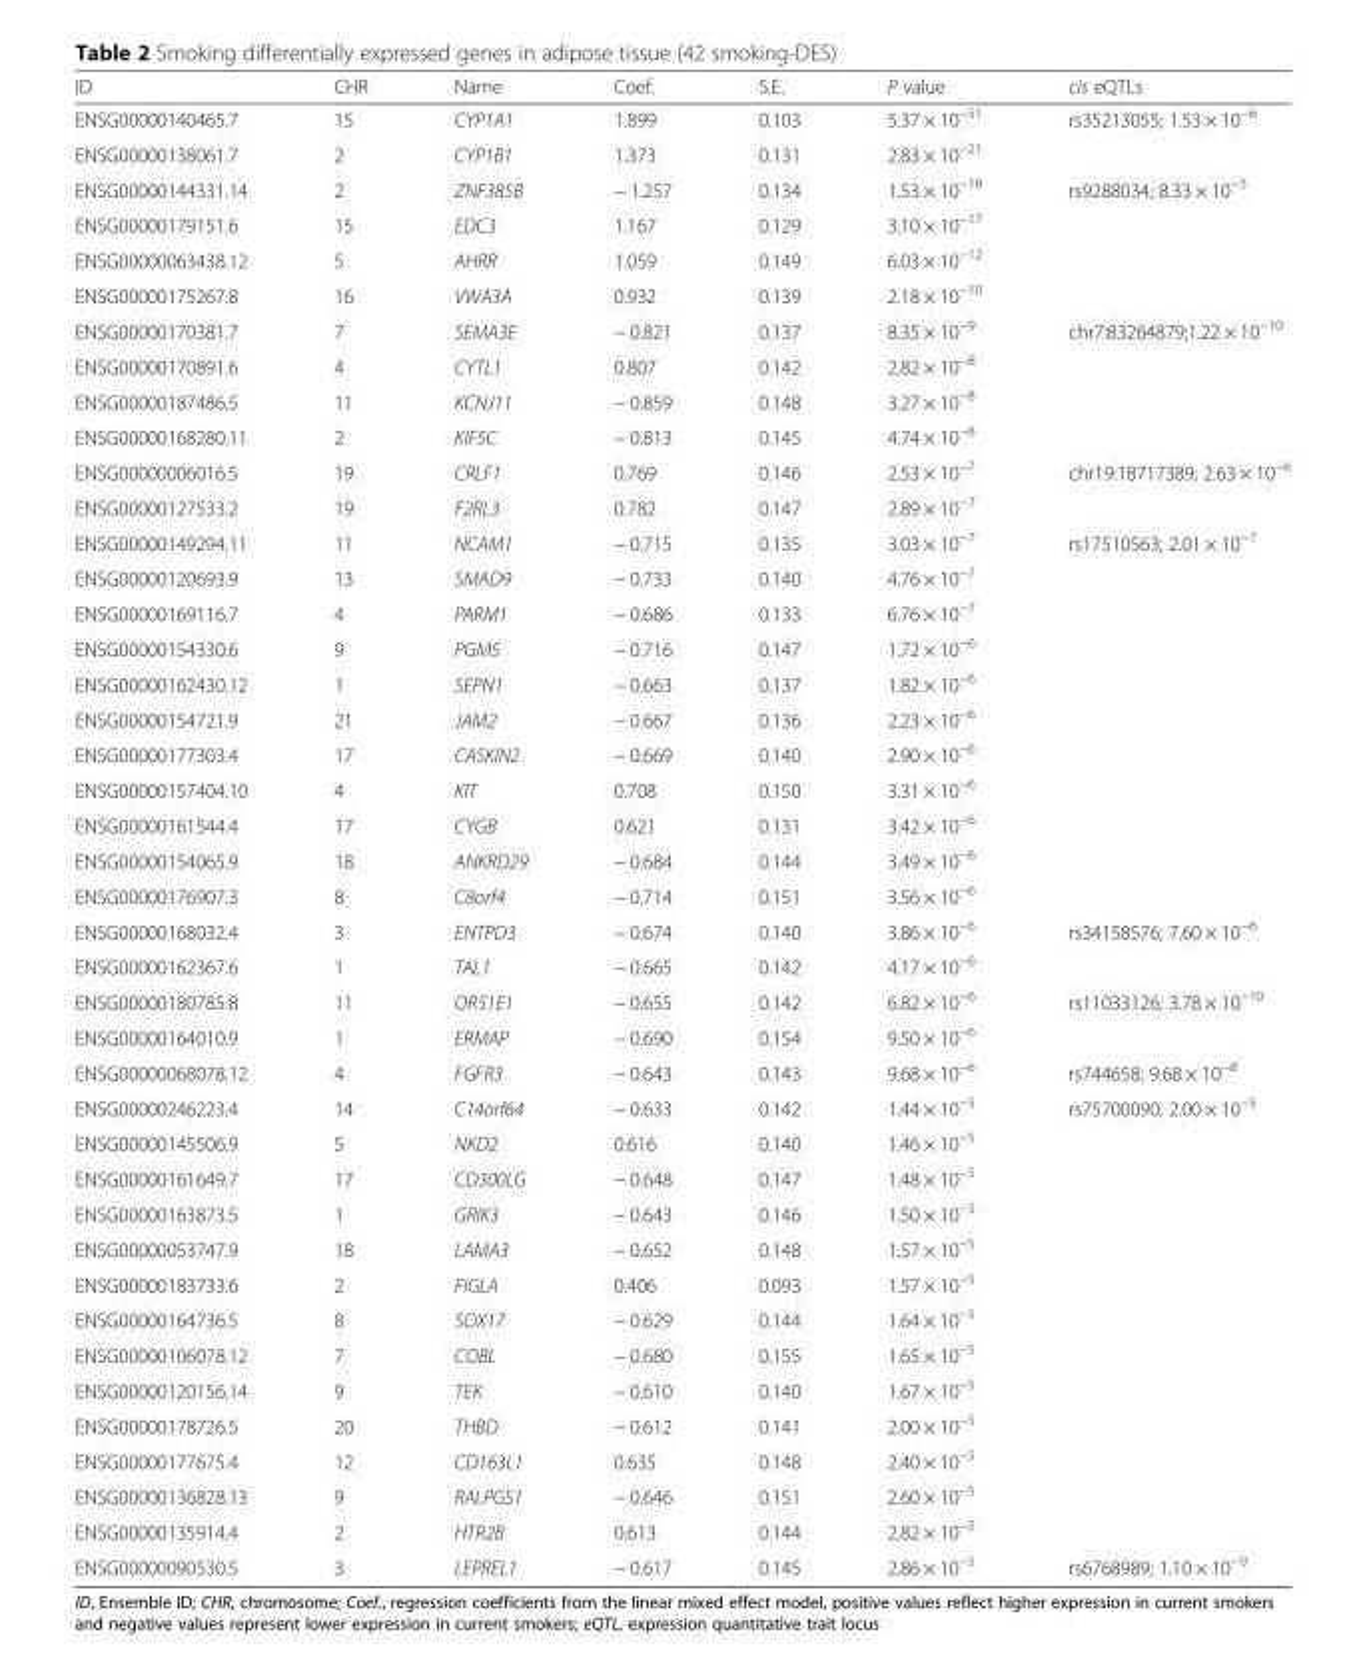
<table><thead><tr><td>ID</td><td>CHR</td><td>Name</td><td>Coef.</td><td>S.E.</td><td>P value</td><td>cis eQTLs</td></tr></thead><tbody><tr><td>ENSG00000140465.7</td><td>15</td><td>CYP1A1</td><td>1.899</td><td>0.103</td><td>5.37 × 10<sup>−51</sup></td><td>rs35213055; 1.53 × 10<sup>−6</sup></td></tr><tr><td>ENSG00000138061.7</td><td>2</td><td>CYP1B1</td><td>1.373</td><td>0.131</td><td>2.83 × 10<sup>−21</sup></td><td></td></tr><tr><td>ENSG00000144331.14</td><td>2</td><td>ZNF385B</td><td>− 1.257</td><td>0.134</td><td>1.53 × 10<sup>−18</sup></td><td>rs9288034; 8.33 × 10<sup>−5</sup></td></tr><tr><td>ENSG00000179151.6</td><td>15</td><td>EDC3</td><td>1.167</td><td>0.129</td><td>3.10 × 10<sup>−17</sup></td><td></td></tr><tr><td>ENSG00000063438.12</td><td>5</td><td>AHRR</td><td>1.059</td><td>0.149</td><td>6.03 × 10<sup>−12</sup></td><td></td></tr><tr><td>ENSG00000175267.8</td><td>16</td><td>VWA3A</td><td>0.932</td><td>0.139</td><td>2.18 × 10<sup>−10</sup></td><td></td></tr><tr><td>ENSG00000170381.7</td><td>7</td><td>SEMA3E</td><td>− 0.821</td><td>0.137</td><td>8.35 × 10<sup>−9</sup></td><td>chr7:83264879;1.22 × 10<sup>−10</sup></td></tr><tr><td>ENSG00000170891.6</td><td>4</td><td>CYTL1</td><td>0.807</td><td>0.142</td><td>2.82 × 10<sup>−8</sup></td><td></td></tr><tr><td>ENSG00000187486.5</td><td>11</td><td>KCNJ11</td><td>− 0.859</td><td>0.148</td><td>3.27 × 10<sup>−8</sup></td><td></td></tr><tr><td>ENSG00000168280.11</td><td>2</td><td>KIF5C</td><td>− 0.813</td><td>0.145</td><td>4.74 × 10<sup>−8</sup></td><td></td></tr><tr><td>ENSG00000006016.5</td><td>19</td><td>CRLF1</td><td>0.769</td><td>0.146</td><td>2.53 × 10<sup>−7</sup></td><td>chr19:18717389; 2.63 × 10<sup>−6</sup></td></tr><tr><td>ENSG00000127533.2</td><td>19</td><td>F2RL3</td><td>0.782</td><td>0.147</td><td>2.89 × 10<sup>−7</sup></td><td></td></tr><tr><td>ENSG00000149294.11</td><td>11</td><td>NCAM1</td><td>− 0.715</td><td>0.135</td><td>3.03 × 10<sup>−7</sup></td><td>rs17510563; 2.01 × 10<sup>−7</sup></td></tr><tr><td>ENSG00000120693.9</td><td>13</td><td>SMAD9</td><td>− 0.733</td><td>0.140</td><td>4.76 × 10<sup>−7</sup></td><td></td></tr><tr><td>ENSG00000169116.7</td><td>4</td><td>PARM1</td><td>− 0.686</td><td>0.133</td><td>6.76 × 10<sup>−7</sup></td><td></td></tr><tr><td>ENSG00000154330.6</td><td>9</td><td>PGM5</td><td>− 0.716</td><td>0.147</td><td>1.72 × 10<sup>−6</sup></td><td></td></tr><tr><td>ENSG00000162430.12</td><td>1</td><td>SEPN1</td><td>− 0.663</td><td>0.137</td><td>1.82 × 10<sup>−6</sup></td><td></td></tr><tr><td>ENSG00000154721.9</td><td>21</td><td>JAM2</td><td>− 0.667</td><td>0.136</td><td>2.23 × 10<sup>−6</sup></td><td></td></tr><tr><td>ENSG00000177303.4</td><td>17</td><td>CASKIN2</td><td>− 0.669</td><td>0.140</td><td>2.90 × 10<sup>−6</sup></td><td></td></tr><tr><td>ENSG00000157404.10</td><td>4</td><td>KIT</td><td>0.708</td><td>0.150</td><td>3.31 × 10<sup>−6</sup></td><td></td></tr><tr><td>ENSG00000161544.4</td><td>17</td><td>CYGB</td><td>0.621</td><td>0.131</td><td>3.42 × 10<sup>−6</sup></td><td></td></tr><tr><td>ENSG00000154065.9</td><td>18</td><td>ANKRD29</td><td>− 0.684</td><td>0.144</td><td>3.49 × 10<sup>−6</sup></td><td></td></tr><tr><td>ENSG00000176907.3</td><td>8</td><td>C8orf4</td><td>− 0.714</td><td>0.151</td><td>3.56 × 10<sup>−6</sup></td><td></td></tr><tr><td>ENSG00000168032.4</td><td>3</td><td>ENTPD3</td><td>− 0.674</td><td>0.140</td><td>3.86 × 10<sup>−6</sup></td><td>rs34158576; 7.60 × 10<sup>−6</sup></td></tr><tr><td>ENSG00000162367.6</td><td>1</td><td>TAL1</td><td>− 0.665</td><td>0.142</td><td>4.17 × 10<sup>−6</sup></td><td></td></tr><tr><td>ENSG00000180785.8</td><td>11</td><td>OR51E1</td><td>− 0.655</td><td>0.142</td><td>6.82 × 10<sup>−6</sup></td><td>rs11033126; 3.78 × 10<sup>−10</sup></td></tr><tr><td>ENSG00000164010.9</td><td>1</td><td>ERMAP</td><td>− 0.690</td><td>0.154</td><td>9.50 × 10<sup>−6</sup></td><td></td></tr><tr><td>ENSG00000068078.12</td><td>4</td><td>FGFR3</td><td>− 0.643</td><td>0.143</td><td>9.68 × 10<sup>−6</sup></td><td>rs744658; 9.68 × 10<sup>−8</sup></td></tr><tr><td>ENSG00000246223.4</td><td>14</td><td>C14orf64</td><td>− 0.633</td><td>0.142</td><td>1.44 × 10<sup>−5</sup></td><td>rs75700090; 2.00 × 10<sup>−5</sup></td></tr><tr><td>ENSG00000145506.9</td><td>5</td><td>NKD2</td><td>0.616</td><td>0.140</td><td>1.46 × 10<sup>−5</sup></td><td></td></tr><tr><td>ENSG00000161649.7</td><td>17</td><td>CD300LG</td><td>− 0.648</td><td>0.147</td><td>1.48 × 10<sup>−5</sup></td><td></td></tr><tr><td>ENSG00000163873.5</td><td>1</td><td>GRIK3</td><td>− 0.643</td><td>0.146</td><td>1.50 × 10<sup>−5</sup></td><td></td></tr><tr><td>ENSG00000053747.9</td><td>18</td><td>LAMA3</td><td>− 0.652</td><td>0.148</td><td>1.57 × 10<sup>−5</sup></td><td></td></tr><tr><td>ENSG00000183733.6</td><td>2</td><td>FIGLA</td><td>0.406</td><td>0.093</td><td>1.57 × 10<sup>−5</sup></td><td></td></tr><tr><td>ENSG00000164736.5</td><td>8</td><td>SOX17</td><td>− 0.629</td><td>0.144</td><td>1.64 × 10<sup>−5</sup></td><td></td></tr><tr><td>ENSG00000106078.12</td><td>7</td><td>COBL</td><td>− 0.680</td><td>0.155</td><td>1.65 × 10<sup>−5</sup></td><td></td></tr><tr><td>ENSG00000120156.14</td><td>9</td><td>TEK</td><td>− 0.610</td><td>0.140</td><td>1.67 × 10<sup>−5</sup></td><td></td></tr><tr><td>ENSG00000178726.5</td><td>20</td><td>THBD</td><td>− 0.612</td><td>0.141</td><td>2.00 × 10<sup>−5</sup></td><td></td></tr><tr><td>ENSG00000177675.4</td><td>12</td><td>CD163L1</td><td>0.635</td><td>0.148</td><td>2.40 × 10<sup>−5</sup></td><td></td></tr><tr><td>ENSG00000136828.13</td><td>9</td><td>RALPGS1</td><td>− 0.646</td><td>0.151</td><td>2.60 × 10<sup>−5</sup></td><td></td></tr><tr><td>ENSG00000135914.4</td><td>2</td><td>HTR2B</td><td>0.613</td><td>0.144</td><td>2.82 × 10<sup>−5</sup></td><td></td></tr><tr><td>ENSG00000090530.5</td><td>3</td><td>LEPREL1</td><td>− 0.617</td><td>0.145</td><td>2.86 × 10<sup>−5</sup></td><td>rs6768989; 1.10 × 10<sup>−9</sup></td></tr></tbody></table>